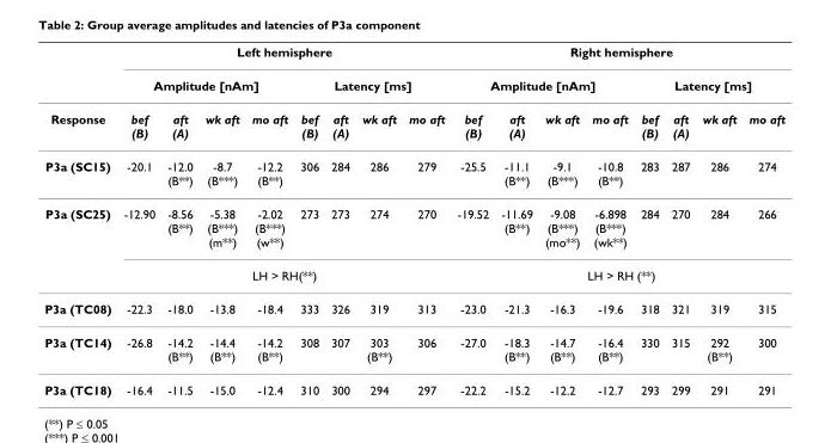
<table><thead><tr><td rowspan="3">Response</td><td colspan="8">Left hemisphere</td><td colspan="8">Right hemisphere</td></tr><tr><td colspan="4">Amplitude [nAm]</td><td colspan="4">Latency [ms]</td><td colspan="4">Amplitude [nAm]</td><td colspan="4">Latency [ms]</td></tr><tr><td>bef (B)</td><td>aft (A)</td><td>wk aft</td><td>mo aft</td><td>bef (B)</td><td>aft (A)</td><td>wk aft</td><td>mo aft</td><td>bef (B)</td><td>aft (A)</td><td>wk aft</td><td>mo aft</td><td>bef (B)</td><td>aft (A)</td><td>wk aft</td><td>mo aft</td></tr></thead><tbody><tr><td>P3a (SC15)</td><td>-20.1</td><td>-12.0 (B**)</td><td>-8.7 (B***)</td><td>-12.2 (B**)</td><td>306</td><td>284</td><td>286</td><td>279</td><td>-25.5</td><td>-11.1 (B**)</td><td>-9.1 (B***)</td><td>-10.8 (B**)</td><td>283</td><td>287</td><td>286</td><td>274</td></tr><tr><td rowspan="2">P3a (SC25)</td><td>-12.90</td><td>-8.56 (B**)</td><td>-5.38 (B***) (m**)</td><td>-2.02 (B***) (w**)</td><td>273</td><td>273</td><td>274</td><td>270</td><td>-19.52</td><td>-11.69 (B**)</td><td>-9.08 (B***) (mo**)</td><td>-6.898 (B***) (wk**)</td><td>284</td><td>270</td><td>284</td><td>266</td></tr><tr><td colspan="8">LH &gt; RH(**)</td><td colspan="8">LH &gt; RH (**)</td></tr><tr><td>P3a (TC08)</td><td>-22.3</td><td>-18.0</td><td>-13.8</td><td>-18.4</td><td>333</td><td>326</td><td>319</td><td>313</td><td>-23.0</td><td>-21.3</td><td>-16.3</td><td>-19.6</td><td>318</td><td>321</td><td>319</td><td>315</td></tr><tr><td>P3a (TC14)</td><td>-26.8</td><td>-14.2 (B**)</td><td>-14.4 (B**)</td><td>-14.2 (B**)</td><td>308</td><td>307</td><td>303 (B**)</td><td>306</td><td>-27.0</td><td>-18.3 (B**)</td><td>-14.7 (B**)</td><td>-16.4 (B**)</td><td>330</td><td>315</td><td>292 (B**)</td><td>300</td></tr><tr><td>P3a (TC18)</td><td>-16.4</td><td>-11.5</td><td>-15.0</td><td>-12.4</td><td>310</td><td>300</td><td>294</td><td>297</td><td>-22.2</td><td>-15.2</td><td>-12.2</td><td>-12.7</td><td>293</td><td>299</td><td>291</td><td>291</td></tr></tbody></table>